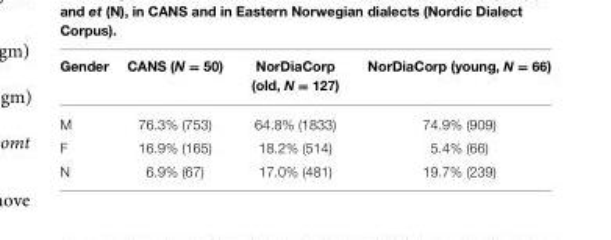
<table><thead><tr><td>Gender</td><td>CANS (N = 50)</td><td>NorDiaCorp (old, N = 127)</td><td>NorDiaCorp (young, N = 66)</td></tr></thead><tbody><tr><td>M</td><td>76.3% (753)</td><td>64.8% (1833)</td><td>74.9% (909)</td></tr><tr><td>F</td><td>16.9% (165)</td><td>18.2% (514)</td><td>5.4% (66)</td></tr><tr><td>N</td><td>6.9% (67)</td><td>17.0% (481)</td><td>19.7% (239)</td></tr></tbody></table>